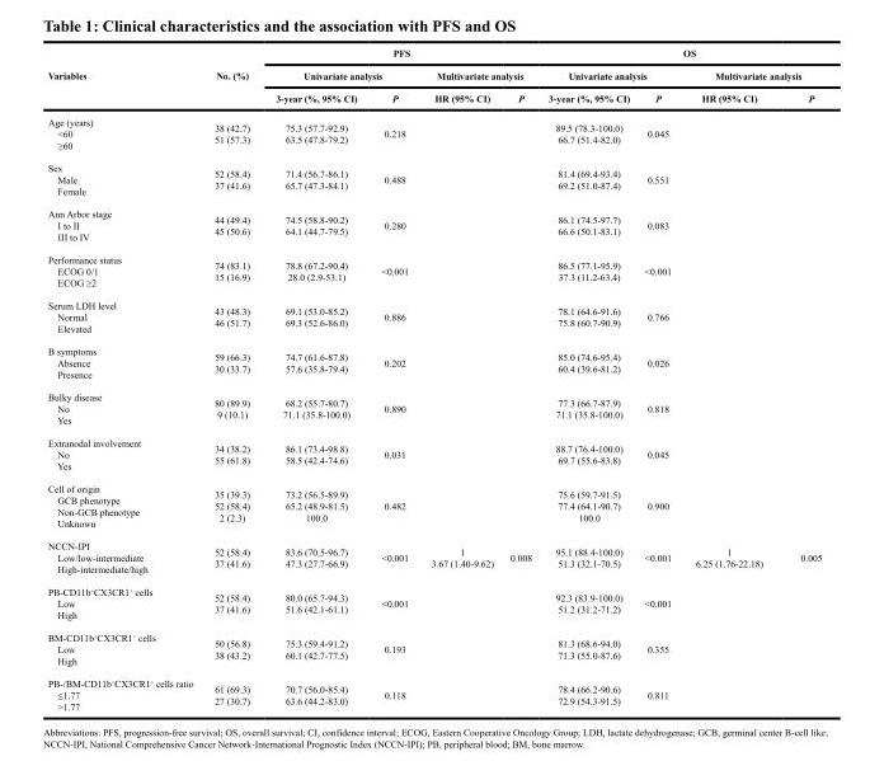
<table><thead><tr><td rowspan="3">Variables</td><td rowspan="3">No. (%)</td><td colspan="4">PFS</td><td colspan="4">OS</td></tr><tr><td colspan="2">Univariate analysis</td><td colspan="2">Multivariate analysis</td><td colspan="2">Univariate analysis</td><td colspan="2">Multivariate analysis</td></tr><tr><td>3-year (%, 95% CI)</td><td>P</td><td>HR (95% CI)</td><td>P</td><td>3-year (%, 95% CI)</td><td>P</td><td>HR (95% CI)</td><td>P</td></tr></thead><tbody><tr><td>Age (years) &lt;60 ≥60</td><td>38 (42.7) 51 (57.3)</td><td>75.3 (57.7-92.9) 63.5 (47.8-79.2)</td><td>0.218</td><td></td><td></td><td>89.5 (78.3-100.0) 66.7 (51.4-82.0)</td><td>0.045</td><td></td><td></td></tr><tr><td>Sex Male Female</td><td>52 (58.4) 37 (41.6)</td><td>71.4 (56.7-86.1) 65.7 (47.3-84.1)</td><td>0.488</td><td></td><td></td><td>81.4 (69.4-93.4) 69.2 (51.0-87.4)</td><td>0.551</td><td></td><td></td></tr><tr><td>Ann Arbor stage I to II III to IV</td><td>44 (49.4) 45 (50.6)</td><td>74.5 (58.8-90.2) 64.1 (44.7-79.5)</td><td>0.280</td><td></td><td></td><td>86.1 (74.5-97.7) 66.6 (50.1-83.1)</td><td>0.083</td><td></td><td></td></tr><tr><td>Performance status ECOG 0/1 ECOG ≥2</td><td>74 (83.1) 15 (16.9)</td><td>78.8 (67.2-90.4) 28.0 (2.9-53.1)</td><td>&lt;0.001</td><td></td><td></td><td>86.5 (77.1-95.9) 37.3 (11.2-63.4)</td><td>&lt;0.001</td><td></td><td></td></tr><tr><td>Serum LDH level Normal Elevated</td><td>43 (48.3) 46 (51.7)</td><td>69.1 (53.0-85.2) 69.3 (52.6-86.0)</td><td>0.886</td><td></td><td></td><td>78.1 (64.6-91.6) 75.8 (60.7-90.9)</td><td>0.766</td><td></td><td></td></tr><tr><td>B symptoms Absence Presence</td><td>59 (66.3) 30 (33.7)</td><td>74.7 (61.6-87.8) 57.6 (35.8-79.4)</td><td>0.202</td><td></td><td></td><td>85.0 (74.6-95.4) 60.4 (39.6-81.2)</td><td>0.026</td><td></td><td></td></tr><tr><td>Bulky disease No Yes</td><td>80 (89.9) 9 (10.1)</td><td>68.2 (55.7-80.7) 71.1 (35.8-100.0)</td><td>0.890</td><td></td><td></td><td>77.3 (66.7-87.9) 71.1 (35.8-100.0)</td><td>0.818</td><td></td><td></td></tr><tr><td>Extranodal involvement No Yes</td><td>34 (38.2) 55 (61.8)</td><td>86.1 (73.4-98.8) 58.5 (42.4-74.6)</td><td>0.031</td><td></td><td></td><td>88.7 (76.4-100.0) 69.7 (55.6-83.8)</td><td>0.045</td><td></td><td></td></tr><tr><td>Cell of origin GCB phenotype Non-GCB phenotype Unknown</td><td>35 (39.3) 52 (58.4) 2 (2.3)</td><td>73.2 (56.5-89.9) 65.2 (48.9-81.5) 100.0</td><td>0.482</td><td></td><td></td><td>75.6 (59.7-91.5) 77.4 (64.1-90.7) 100.0</td><td>0.900</td><td></td><td></td></tr><tr><td>NCCN-IPI Low/low-intermediate High-intermediate/high</td><td>52 (58.4) 37 (41.6)</td><td>83.6 (70.5-96.7) 47.3 (27.7-66.9)</td><td>&lt;0.001</td><td>1 3.67 (1.40-9.62)</td><td>0.008</td><td>95.1 (88.4-100.0) 51.3 (32.1-70.5)</td><td>&lt;0.001</td><td>1 6.25 (1.76-22.18)</td><td>0.005</td></tr><tr><td>PB-CD11b<sup>+</sup>CX3CR1<sup>+</sup> cells Low High</td><td>52 (58.4) 37 (41.6)</td><td>80.0 (65.7-94.3) 51.6 (42.1-61.1)</td><td>&lt;0.001</td><td></td><td></td><td>92.3 (83.9-100.0) 51.2 (31.2-71.2)</td><td>&lt;0.001</td><td></td><td></td></tr><tr><td>BM-CD11b<sup>+</sup>CX3CR1<sup>+</sup> cells Low High</td><td>50 (56.8) 38 (43.2)</td><td>75.3 (59.4-91.2) 60.1 (42.7-77.5)</td><td>0.193</td><td></td><td></td><td>81.3 (68.6-94.0) 71.3 (55.0-87.6)</td><td>0.355</td><td></td><td></td></tr><tr><td>PB-/BM-CD11b<sup>+</sup>CX3CR1<sup>+</sup> cells ratio ≤1.77 &gt;1.77</td><td>61 (69.3) 27 (30.7)</td><td>70.7 (56.0-85.4) 63.6 (44.2-83.0)</td><td>0.118</td><td></td><td></td><td>78.4 (66.2-90.6) 72.9 (54.3-91.5)</td><td>0.811</td><td></td><td></td></tr></tbody></table>